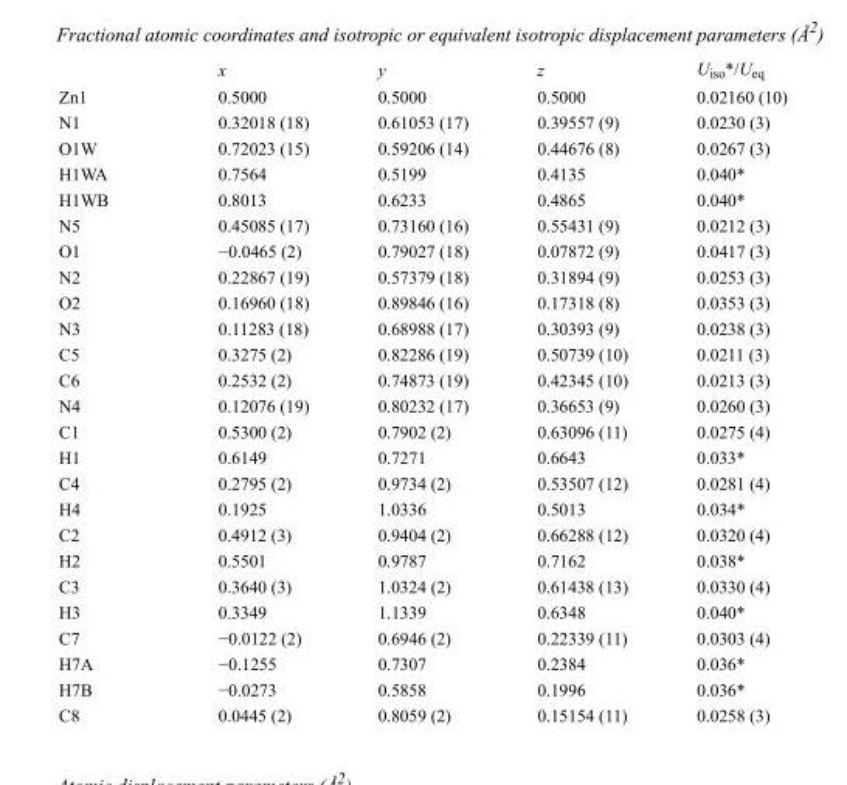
<table><thead><tr><td></td><td>x</td><td>y</td><td>z</td><td>U<sub>iso</sub>*/U<sub>eq</sub></td></tr></thead><tbody><tr><td>Zn1</td><td>0.5000</td><td>0.5000</td><td>0.5000</td><td>0.02160 (10)</td></tr><tr><td>N1</td><td>0.32018 (18)</td><td>0.61053 (17)</td><td>0.39557 (9)</td><td>0.0230 (3)</td></tr><tr><td>O1W</td><td>0.72023 (15)</td><td>0.59206 (14)</td><td>0.44676 (8)</td><td>0.0267 (3)</td></tr><tr><td>H1WA</td><td>0.7564</td><td>0.5199</td><td>0.4135</td><td>0.040*</td></tr><tr><td>H1WB</td><td>0.8013</td><td>0.6233</td><td>0.4865</td><td>0.040*</td></tr><tr><td>N5</td><td>0.45085 (17)</td><td>0.73160 (16)</td><td>0.55431 (9)</td><td>0.0212 (3)</td></tr><tr><td>O1</td><td>−0.0465 (2)</td><td>0.79027 (18)</td><td>0.07872 (9)</td><td>0.0417 (3)</td></tr><tr><td>N2</td><td>0.22867 (19)</td><td>0.57379 (18)</td><td>0.31894 (9)</td><td>0.0253 (3)</td></tr><tr><td>O2</td><td>0.16960 (18)</td><td>0.89846 (16)</td><td>0.17318 (8)</td><td>0.0353 (3)</td></tr><tr><td>N3</td><td>0.11283 (18)</td><td>0.68988 (17)</td><td>0.30393 (9)</td><td>0.0238 (3)</td></tr><tr><td>C5</td><td>0.3275 (2)</td><td>0.82286 (19)</td><td>0.50739 (10)</td><td>0.0211 (3)</td></tr><tr><td>C6</td><td>0.2532 (2)</td><td>0.74873 (19)</td><td>0.42345 (10)</td><td>0.0213 (3)</td></tr><tr><td>N4</td><td>0.12076 (19)</td><td>0.80232 (17)</td><td>0.36653 (9)</td><td>0.0260 (3)</td></tr><tr><td>C1</td><td>0.5300 (2)</td><td>0.7902 (2)</td><td>0.63096 (11)</td><td>0.0275 (4)</td></tr><tr><td>H1</td><td>0.6149</td><td>0.7271</td><td>0.6643</td><td>0.033*</td></tr><tr><td>C4</td><td>0.2795 (2)</td><td>0.9734 (2)</td><td>0.53507 (12)</td><td>0.0281 (4)</td></tr><tr><td>H4</td><td>0.1925</td><td>1.0336</td><td>0.5013</td><td>0.034*</td></tr><tr><td>C2</td><td>0.4912 (3)</td><td>0.9404 (2)</td><td>0.66288 (12)</td><td>0.0320 (4)</td></tr><tr><td>H2</td><td>0.5501</td><td>0.9787</td><td>0.7162</td><td>0.038*</td></tr><tr><td>C3</td><td>0.3640 (3)</td><td>1.0324 (2)</td><td>0.61438 (13)</td><td>0.0330 (4)</td></tr><tr><td>H3</td><td>0.3349</td><td>1.1339</td><td>0.6348</td><td>0.040*</td></tr><tr><td>C7</td><td>−0.0122 (2)</td><td>0.6946 (2)</td><td>0.22339 (11)</td><td>0.0303 (4)</td></tr><tr><td>H7A</td><td>−0.1255</td><td>0.7307</td><td>0.2384</td><td>0.036*</td></tr><tr><td>H7B</td><td>−0.0273</td><td>0.5858</td><td>0.1996</td><td>0.036*</td></tr><tr><td>C8</td><td>0.0445 (2)</td><td>0.8059 (2)</td><td>0.15154 (11)</td><td>0.0258 (3)</td></tr></tbody></table>